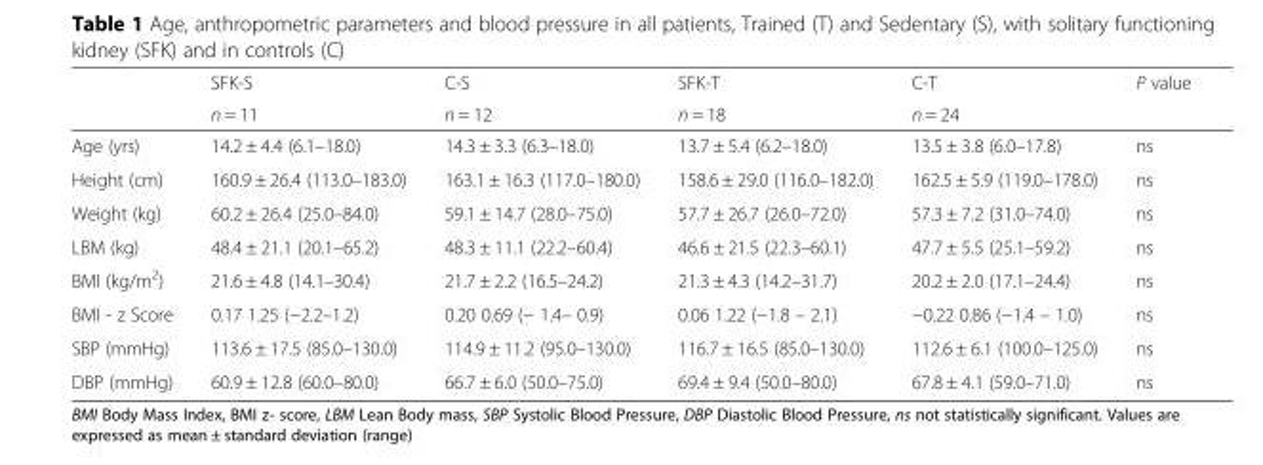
<table><thead><tr><td rowspan="2"></td><td rowspan="2">SFK-S n = 11</td><td rowspan="2">C-S n = 12</td><td rowspan="2">SFK-T n = 18</td><td rowspan="2">C-T n = 24</td><td rowspan="2">P value</td></tr><tr></tr></thead><tbody><tr><td>Age (yrs)</td><td>14.2 ± 4.4 (6.1–18.0)</td><td>14.3 ± 3.3 (6.3–18.0)</td><td>13.7 ± 5.4 (6.2–18.0)</td><td>13.5 ± 3.8 (6.0–17.8)</td><td>ns</td></tr><tr><td>Height (cm)</td><td>160.9 ± 26.4 (113.0–183.0)</td><td>163.1 ± 16.3 (117.0–180.0)</td><td>158.6 ± 29.0 (116.0–182.0)</td><td>162.5 ± 5.9 (119.0–178.0)</td><td>ns</td></tr><tr><td>Weight (kg)</td><td>60.2 ± 26.4 (25.0–84.0)</td><td>59.1 ± 14.7 (28.0–75.0)</td><td>57.7 ± 26.7 (26.0–72.0)</td><td>57.3 ± 7.2 (31.0–74.0)</td><td>ns</td></tr><tr><td>LBM (kg)</td><td>48.4 ± 21.1 (20.1–65.2)</td><td>48.3 ± 11.1 (22.2–60.4)</td><td>46.6 ± 21.5 (22.3–60.1)</td><td>47.7 ± 5.5 (25.1–59.2)</td><td>ns</td></tr><tr><td>BMI (kg/m<sup>2</sup>)</td><td>21.6 ± 4.8 (14.1–30.4)</td><td>21.7 ± 2.2 (16.5–24.2)</td><td>21.3 ± 4.3 (14.2–31.7)</td><td>20.2 ± 2.0 (17.1–24.4)</td><td>ns</td></tr><tr><td>BMI - z Score</td><td>0.17 1.25 (−2.2–1.2)</td><td>0.20 0.69 (− 1.4– 0.9)</td><td>0.06 1.22 (−1.8 – 2.1)</td><td>−0.22 0.86 (−1.4 – 1.0)</td><td>ns</td></tr><tr><td>SBP (mmHg)</td><td>113.6 ± 17.5 (85.0–130.0)</td><td>114.9 ± 11.2 (95.0–130.0)</td><td>116.7 ± 16.5 (85.0–130.0)</td><td>112.6 ± 6.1 (100.0–125.0)</td><td>ns</td></tr><tr><td>DBP (mmHg)</td><td>60.9 ± 12.8 (60.0–80.0)</td><td>66.7 ± 6.0 (50.0–75.0)</td><td>69.4 ± 9.4 (50.0–80.0)</td><td>67.8 ± 4.1 (59.0–71.0)</td><td>ns</td></tr></tbody></table>